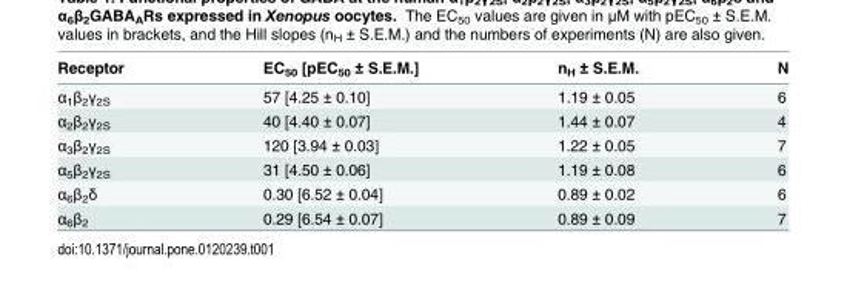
<table><thead><tr><td>Receptor</td><td>EC<sub>50</sub> [pEC<sub>50</sub> ± S.E.M.]</td><td>n<sub>H</sub> ± S.E.M.</td><td>N</td></tr></thead><tbody><tr><td>α<sub>1</sub>β<sub>2</sub>γ<sub>2S</sub></td><td>57 [4.25 ± 0.10]</td><td>1.19 ± 0.05</td><td>6</td></tr><tr><td>α<sub>2</sub>β<sub>2</sub>γ<sub>2S</sub></td><td>40 [4.40 ± 0.07]</td><td>1.44 ± 0.07</td><td>4</td></tr><tr><td>α<sub>3</sub>β<sub>2</sub>γ<sub>2S</sub></td><td>120 [3.94 ± 0.03]</td><td>1.22 ± 0.05</td><td>7</td></tr><tr><td>α<sub>5</sub>β<sub>2</sub>γ<sub>2S</sub></td><td>31 [4.50 ± 0.06]</td><td>1.19 ± 0.08</td><td>6</td></tr><tr><td>α<sub>6</sub>β<sub>2</sub>δ</td><td>0.30 [6.52 ± 0.04]</td><td>0.89 ± 0.02</td><td>6</td></tr><tr><td>α<sub>6</sub>β<sub>2</sub></td><td>0.29 [6.54 ± 0.07]</td><td>0.89 ± 0.09</td><td>7</td></tr></tbody></table>